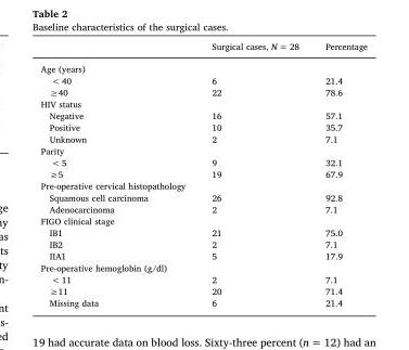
<table><thead><tr><td></td><td>Surgical cases, N = 28</td><td>Percentage</td></tr></thead><tbody><tr><td colspan="3">Age (years)</td></tr><tr><td>&lt; 40</td><td>6</td><td>21.4</td></tr><tr><td>≥40</td><td>22</td><td>78.6</td></tr><tr><td colspan="3">HIV status</td></tr><tr><td>Negative</td><td>16</td><td>57.1</td></tr><tr><td>Positive</td><td>10</td><td>35.7</td></tr><tr><td>Unknown</td><td>2</td><td>7.1</td></tr><tr><td colspan="3">Parity</td></tr><tr><td>&lt; 5</td><td>9</td><td>32.1</td></tr><tr><td>≥5</td><td>19</td><td>67.9</td></tr><tr><td colspan="3">Pre-operative cervical histopathology</td></tr><tr><td>Squamous cell carcinoma</td><td>26</td><td>92.8</td></tr><tr><td>Adenocarcinoma</td><td>2</td><td>7.1</td></tr><tr><td colspan="3">FIGO clinical stage</td></tr><tr><td>IB1</td><td>21</td><td>75.0</td></tr><tr><td>IB2</td><td>2</td><td>7.1</td></tr><tr><td>IIA1</td><td>5</td><td>17.9</td></tr><tr><td colspan="3">Pre-operative hemoglobin (g/dl)</td></tr><tr><td>&lt; 11</td><td>2</td><td>7.1</td></tr><tr><td>≥11</td><td>20</td><td>71.4</td></tr><tr><td>Missing data</td><td>6</td><td>21.4</td></tr></tbody></table>